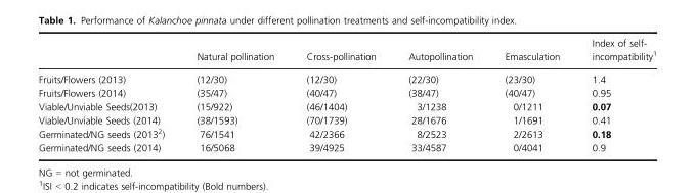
<table><thead><tr><td></td><td>Natural pollination</td><td>Cross-pollination</td><td>Autopollination</td><td>Emasculation</td><td>Index of self- incompatibility1</td></tr></thead><tbody><tr><td>Fruits/Flowers (2013)</td><td>(12/30)</td><td>(12/30)</td><td>(22/30)</td><td>(23/30)</td><td>1.4</td></tr><tr><td>Fruits/Flowers (2014)</td><td>(35/47)</td><td>(40/47)</td><td>(38/47)</td><td>(40/47)</td><td>0.95</td></tr><tr><td>Viable/Unviable Seeds(2013)</td><td>(15/922)</td><td>(46/1404)</td><td>3/1238</td><td>0/1211</td><td>0.07</td></tr><tr><td>Viable/Unviable Seeds (2014)</td><td>(38/1593)</td><td>(70/1739)</td><td>28/1676</td><td>1/1691</td><td>0.41</td></tr><tr><td>Germinated/NG seeds (20132)</td><td>76/1541</td><td>42/2366</td><td>8/2523</td><td>2/2613</td><td>0.18</td></tr><tr><td>Germinated/NG seeds (2014)</td><td>16/5068</td><td>39/4925</td><td>33/4587</td><td>0/4041</td><td>0.9</td></tr></tbody></table>